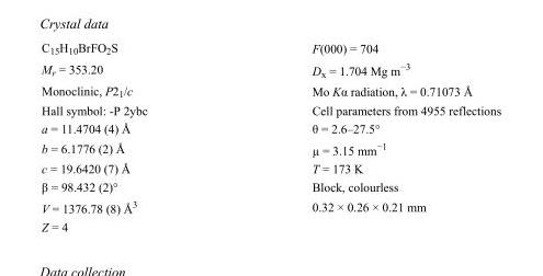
<table><tbody><tr><td>C<sub>15</sub>H<sub>10</sub>BrFO<sub>2</sub>S</td><td>F(000) = 704</td></tr><tr><td>M<sub>r</sub> = 353.20</td><td>D<sub>x</sub> = 1.704 Mg m<sup>−3</sup></td></tr><tr><td>Monoclinic, P2<sub>1</sub>/c</td><td>Mo Kα radiation, λ = 0.71073 Å</td></tr><tr><td>Hall symbol: -P 2ybc</td><td>Cell parameters from 4955 reflections</td></tr><tr><td>a = 11.4704 (4) Å</td><td>θ = 2.6–27.5°</td></tr><tr><td>b = 6.1776 (2) Å</td><td>µ = 3.15 mm<sup>−1</sup></td></tr><tr><td>c = 19.6420 (7) Å</td><td>T = 173 K</td></tr><tr><td>β = 98.432 (2)°</td><td>Block, colourless</td></tr><tr><td>V = 1376.78 (8) Å<sup>3</sup></td><td>0.32 × 0.26 × 0.21 mm</td></tr><tr><td>Z = 4</td><td></td></tr></tbody></table>